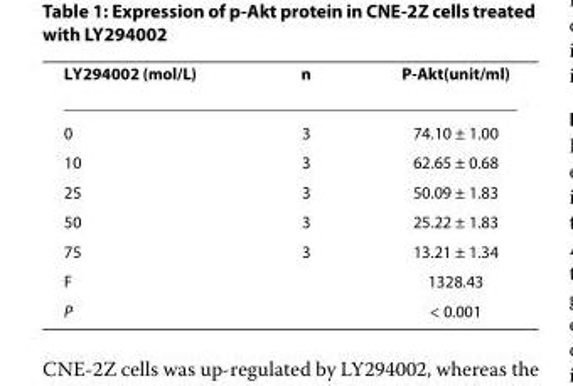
<table><thead><tr><td>LY294002 (mol/L)</td><td>n</td><td>P-Akt(unit/ml)</td></tr></thead><tbody><tr><td>0</td><td>3</td><td>74.10 ± 1.00</td></tr><tr><td>10</td><td>3</td><td>62.65 ± 0.68</td></tr><tr><td>25</td><td>3</td><td>50.09 ± 1.83</td></tr><tr><td>50</td><td>3</td><td>25.22 ± 1.83</td></tr><tr><td>75</td><td>3</td><td>13.21 ± 1.34</td></tr><tr><td>F</td><td></td><td>1328.43</td></tr><tr><td>P</td><td></td><td>&lt; 0.001</td></tr></tbody></table>